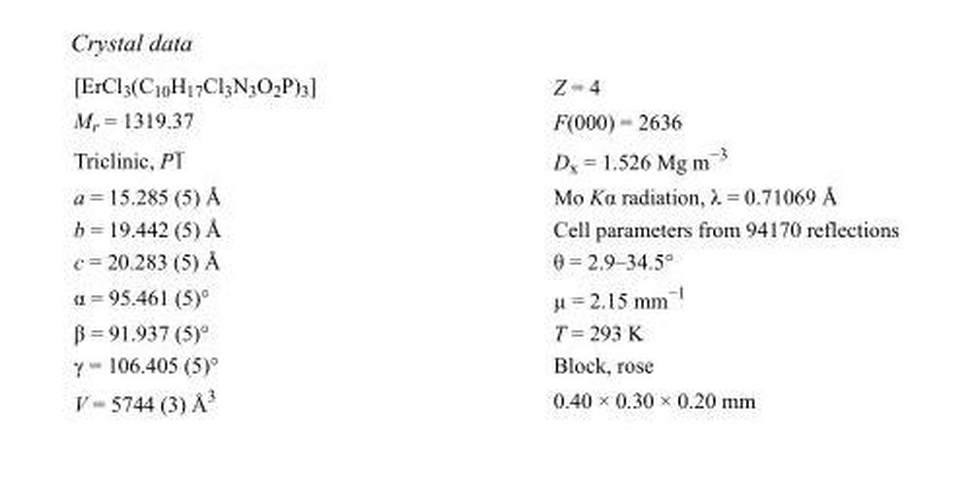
<table><tbody><tr><td>[ErCl<sub>3</sub>(C<sub>10</sub>H<sub>17</sub>Cl<sub>3</sub>N<sub>3</sub>O<sub>2</sub>P)<sub>3</sub>]</td><td>Z = 4</td></tr><tr><td>M<sub>r</sub> = 1319.37</td><td>F(000) = 2636</td></tr><tr><td>Triclinic, P1</td><td>D<sub>x</sub> = 1.526 Mg m<sup>−3</sup></td></tr><tr><td>a = 15.285 (5) Å</td><td>Mo Kα radiation, λ = 0.71069 Å</td></tr><tr><td>b = 19.442 (5) Å</td><td>Cell parameters from 94170 reflections</td></tr><tr><td>c = 20.283 (5) Å</td><td>θ = 2.9–34.5°</td></tr><tr><td>α = 95.461 (5)°</td><td>µ = 2.15 mm<sup>−1</sup></td></tr><tr><td>β = 91.937 (5)°</td><td>T = 293 K</td></tr><tr><td>γ = 106.405 (5)°</td><td>Block, rose</td></tr><tr><td>V = 5744 (3) Å<sup>3</sup></td><td>0.40 × 0.30 × 0.20 mm</td></tr></tbody></table>